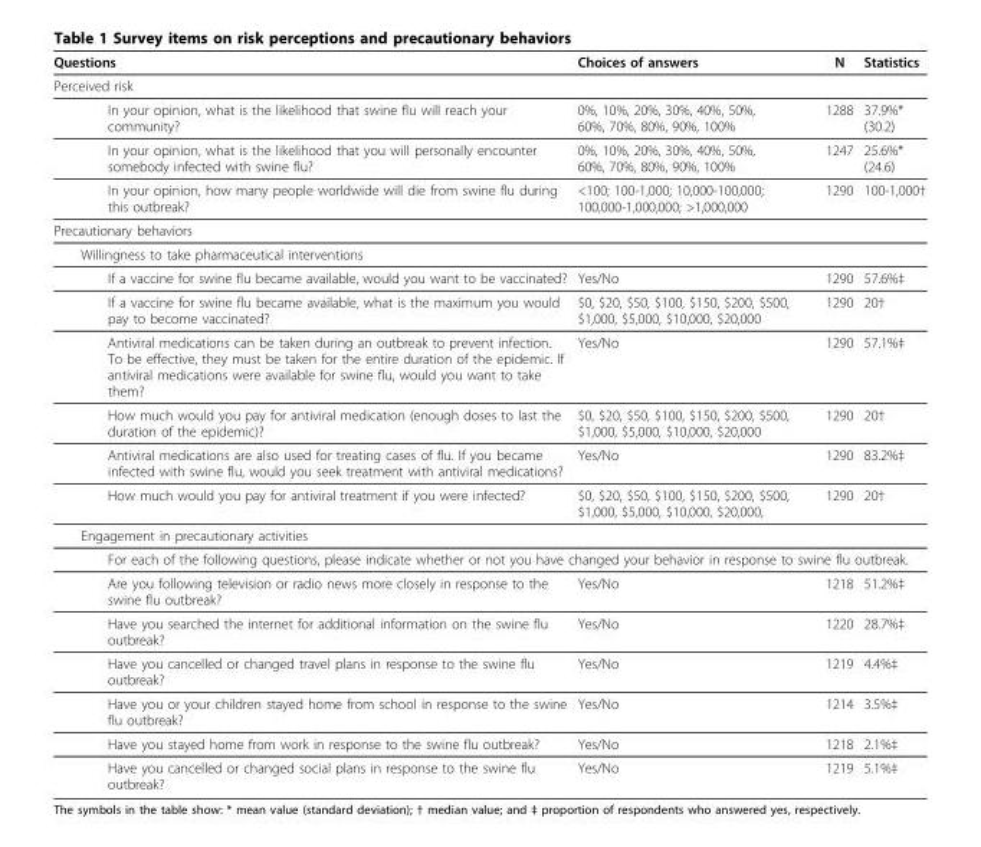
<table><thead><tr><td>Questions</td><td>Choices of answers</td><td>N</td><td>Statistics</td></tr></thead><tbody><tr><td colspan="4">Perceived risk</td></tr><tr><td>In your opinion, what is the likelihood that swine flu will reach your community?</td><td>0%, 10%, 20%, 30%, 40%, 50%, 60%, 70%, 80%, 90%, 100%</td><td>1288</td><td>37.9%* (30.2)</td></tr><tr><td>In your opinion, what is the likelihood that you will personally encounter somebody infected with swine flu?</td><td>0%, 10%, 20%, 30%, 40%, 50%, 60%, 70%, 80%, 90%, 100%</td><td>1247</td><td>25.6%* (24.6)</td></tr><tr><td>In your opinion, how many people worldwide will die from swine flu during this outbreak?</td><td>&lt;100; 100-1,000; 10,000-100,000; 100,000-1,000,000; &gt;1,000,000</td><td>1290</td><td>100-1,000†</td></tr><tr><td colspan="4">Precautionary behaviors</td></tr><tr><td colspan="4">Willingness to take pharmaceutical interventions</td></tr><tr><td>If a vaccine for swine flu became available, would you want to be vaccinated?</td><td>Yes/No</td><td>1290</td><td>57.6%‡</td></tr><tr><td>If a vaccine for swine flu became available, what is the maximum you would pay to become vaccinated?</td><td>$0, $20, $50, $100, $150, $200, $500, $1,000, $5,000, $10,000, $20,000</td><td>1290</td><td>20†</td></tr><tr><td>Antiviral medications can be taken during an outbreak to prevent infection. To be effective, they must be taken for the entire duration of the epidemic. If antiviral medications were available for swine flu, would you want to take them?</td><td>Yes/No</td><td>1290</td><td>57.1%‡</td></tr><tr><td>How much would you pay for antiviral medication (enough doses to last the duration of the epidemic)?</td><td>$0, $20, $50, $100, $150, $200, $500, $1,000, $5,000, $10,000, $20,000</td><td>1290</td><td>20†</td></tr><tr><td>Antiviral medications are also used for treating cases of flu. If you became infected with swine flu, would you seek treatment with antiviral medications?</td><td>Yes/No</td><td>1290</td><td>83.2%‡</td></tr><tr><td>How much would you pay for antiviral treatment if you were infected?</td><td>$0, $20, $50, $100, $150, $200, $500, $1,000, $5,000, $10,000, $20,000,</td><td>1290</td><td>20†</td></tr><tr><td colspan="4">Engagement in precautionary activities</td></tr><tr><td colspan="4">For each of the following questions, please indicate whether or not you have changed your behavior in response to swine flu outbreak.</td></tr><tr><td>Are you following television or radio news more closely in response to the swine flu outbreak?</td><td>Yes/No</td><td>1218</td><td>51.2%‡</td></tr><tr><td>Have you searched the internet for additional information on the swine flu outbreak?</td><td>Yes/No</td><td>1220</td><td>28.7%‡</td></tr><tr><td>Have you cancelled or changed travel plans in response to the swine flu outbreak?</td><td>Yes/No</td><td>1219</td><td>4.4%‡</td></tr><tr><td>Have you or your children stayed home from school in response to the swine flu outbreak?</td><td>Yes/No</td><td>1214</td><td>3.5%‡</td></tr><tr><td>Have you stayed home from work in response to the swine flu outbreak?</td><td>Yes/No</td><td>1218</td><td>2.1%‡</td></tr><tr><td>Have you cancelled or changed social plans in response to the swine flu outbreak?</td><td>Yes/No</td><td>1219</td><td>5.1%‡</td></tr></tbody></table>